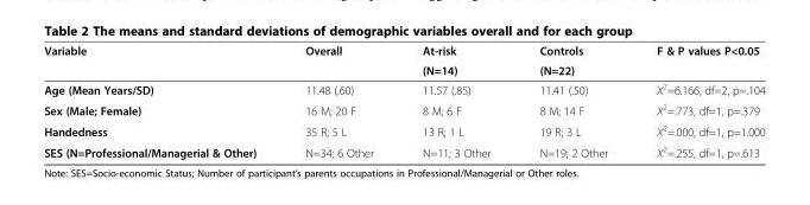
<table><thead><tr><td rowspan="2">Variable</td><td rowspan="2">Overall</td><td rowspan="2">At-risk (N=14)</td><td rowspan="2">Controls (N=22)</td><td rowspan="2">F &amp; P values P&lt;0.05</td></tr><tr></tr></thead><tbody><tr><td>Age (Mean Years/SD)</td><td>11.48 (.60)</td><td>11.57 (.85)</td><td>11.41 (.50)</td><td>X<sup>2</sup>=6.166, df=2, p=.104</td></tr><tr><td>Sex (Male; Female)</td><td>16 M; 20 F</td><td>8 M; 6 F</td><td>8 M; 14 F</td><td>X<sup>2</sup>=.773, df=1, p=.379</td></tr><tr><td>Handedness</td><td>35 R; 5 L</td><td>13 R; 1 L</td><td>19 R; 3 L</td><td>X<sup>2</sup>=.000, df=1, p=1.000</td></tr><tr><td>SES (N=Professional/Managerial &amp; Other)</td><td>N=34; 6 Other</td><td>N=11; 3 Other</td><td>N=19; 2 Other</td><td>X<sup>2</sup>=.255, df=1, p=.613</td></tr></tbody></table>